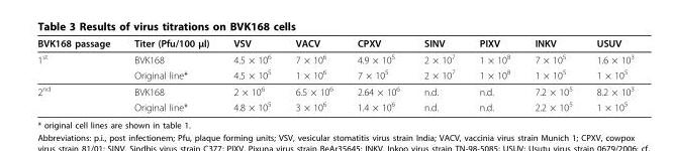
<table><thead><tr><td>BVK168 passage</td><td>Titer (Pfu/100 μl)</td><td>VSV</td><td>VACV</td><td>CPXV</td><td>SINV</td><td>PIXV</td><td>INKV</td><td>USUV</td></tr></thead><tbody><tr><td rowspan="2">1<sup>st</sup></td><td>BVK168</td><td>4.5 × 10<sup>6</sup></td><td>7 × 10<sup>6</sup></td><td>4.9 × 10<sup>5</sup></td><td>2 × 10<sup>7</sup></td><td>1 × 10<sup>8</sup></td><td>7 × 10<sup>5</sup></td><td>1.6 × 10<sup>3</sup></td></tr><tr><td>Original line*</td><td>4.5 × 10<sup>5</sup></td><td>1 × 10<sup>6</sup></td><td>7 × 10<sup>5</sup></td><td>2 × 10<sup>7</sup></td><td>1 × 10<sup>8</sup></td><td>1 × 10<sup>5</sup></td><td>1 × 10<sup>5</sup></td></tr><tr><td rowspan="2">2<sup>nd</sup></td><td>BVK168</td><td>2 × 10<sup>6</sup></td><td>6.5 × 10<sup>6</sup></td><td>2.64 × 10<sup>6</sup></td><td>n.d.</td><td>n.d.</td><td>7.2 × 10<sup>5</sup></td><td>8.2 × 10<sup>3</sup></td></tr><tr><td>Original line*</td><td>4.8 × 10<sup>5</sup></td><td>3 × 10<sup>6</sup></td><td>1.4 × 10<sup>6</sup></td><td>n.d.</td><td>n.d.</td><td>2.2 × 10<sup>5</sup></td><td>1 × 10<sup>5</sup></td></tr></tbody></table>